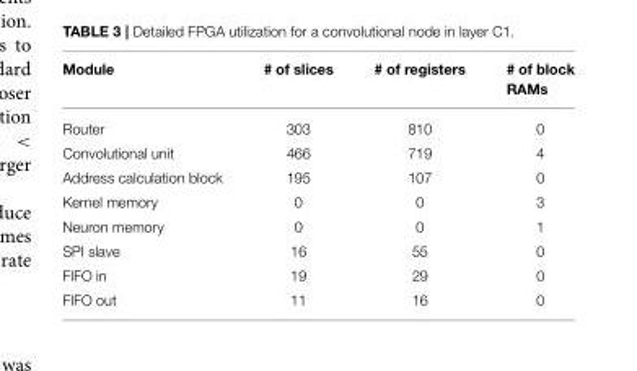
<table><thead><tr><td>Module</td><td># of slices</td><td># of registers</td><td># of block RAMs</td></tr></thead><tbody><tr><td>Router</td><td>303</td><td>810</td><td>0</td></tr><tr><td>Convolutional unit</td><td>466</td><td>719</td><td>4</td></tr><tr><td>Address calculation block</td><td>195</td><td>107</td><td>0</td></tr><tr><td>Kernel memory</td><td>0</td><td>0</td><td>3</td></tr><tr><td>Neuron memory</td><td>0</td><td>0</td><td>1</td></tr><tr><td>SPI slave</td><td>16</td><td>55</td><td>0</td></tr><tr><td>FIFO in</td><td>19</td><td>29</td><td>0</td></tr><tr><td>FIFO out</td><td>11</td><td>16</td><td>0</td></tr></tbody></table>